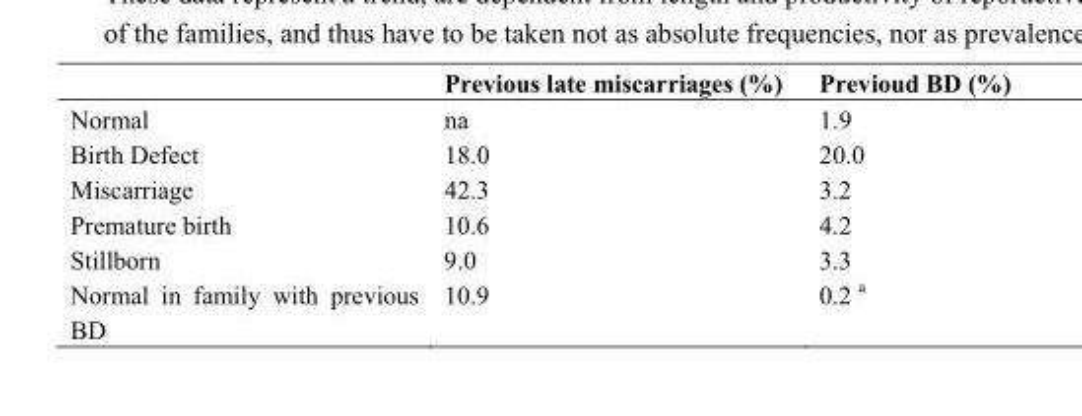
<table><thead><tr><td></td><td>Previous late miscarriages (%)</td><td>Previoud BD (%)</td></tr></thead><tbody><tr><td>Normal</td><td>na</td><td>1.9</td></tr><tr><td>Birth Defect</td><td>18.0</td><td>20.0</td></tr><tr><td>Miscarriage</td><td>42.3</td><td>3.2</td></tr><tr><td>Premature birth</td><td>10.6</td><td>4.2</td></tr><tr><td>Stillborn</td><td>9.0</td><td>3.3</td></tr><tr><td>Normal in family with previous BD</td><td>10.9</td><td>0.2 <sup>a</sup></td></tr></tbody></table>